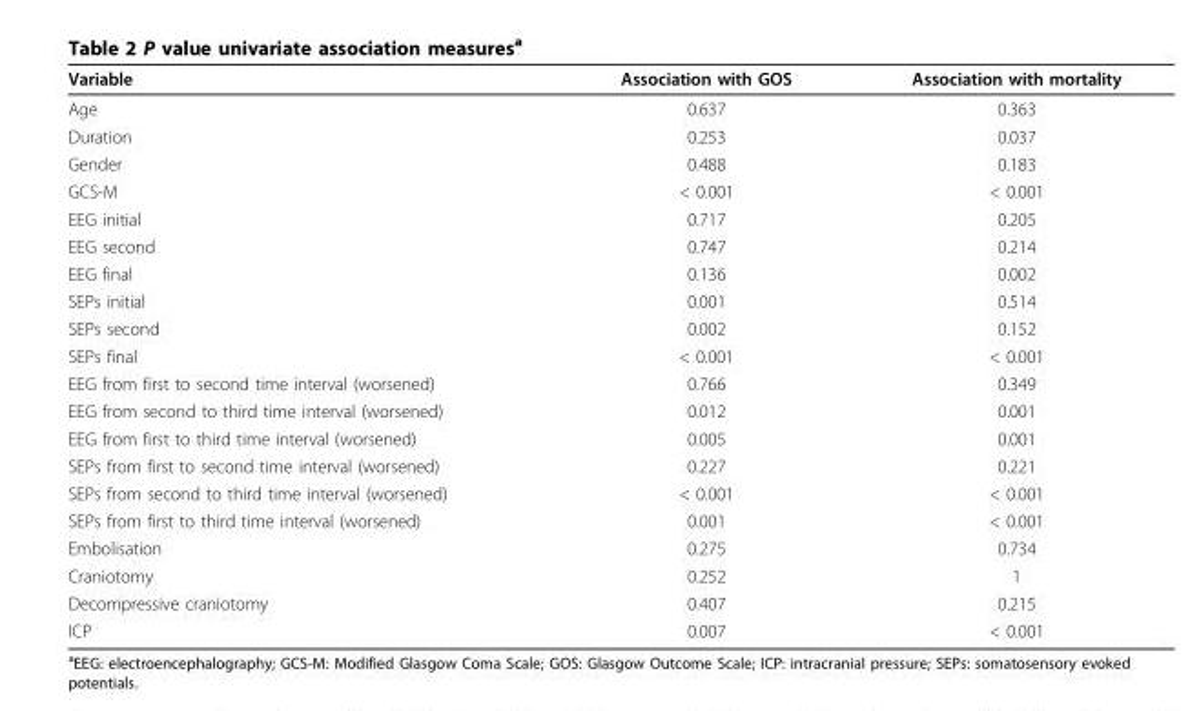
<table><thead><tr><td>Variable</td><td>Association with GOS</td><td>Association with mortality</td></tr></thead><tbody><tr><td>Age</td><td>0.637</td><td>0.363</td></tr><tr><td>Duration</td><td>0.253</td><td>0.037</td></tr><tr><td>Gender</td><td>0.488</td><td>0.183</td></tr><tr><td>GCS-M</td><td>&lt; 0.001</td><td>&lt; 0.001</td></tr><tr><td>EEG initial</td><td>0.717</td><td>0.205</td></tr><tr><td>EEG second</td><td>0.747</td><td>0.214</td></tr><tr><td>EEG final</td><td>0.136</td><td>0.002</td></tr><tr><td>SEPs initial</td><td>0.001</td><td>0.514</td></tr><tr><td>SEPs second</td><td>0.002</td><td>0.152</td></tr><tr><td>SEPs final</td><td>&lt; 0.001</td><td>&lt; 0.001</td></tr><tr><td>EEG from first to second time interval (worsened)</td><td>0.766</td><td>0.349</td></tr><tr><td>EEG from second to third time interval (worsened)</td><td>0.012</td><td>0.001</td></tr><tr><td>EEG from first to third time interval (worsened)</td><td>0.005</td><td>0.001</td></tr><tr><td>SEPs from first to second time interval (worsened)</td><td>0.227</td><td>0.221</td></tr><tr><td>SEPs from second to third time interval (worsened)</td><td>&lt; 0.001</td><td>&lt; 0.001</td></tr><tr><td>SEPs from first to third time interval (worsened)</td><td>0.001</td><td>&lt; 0.001</td></tr><tr><td>Embolisation</td><td>0.275</td><td>0.734</td></tr><tr><td>Craniotomy</td><td>0.252</td><td>1</td></tr><tr><td>Decompressive craniotomy</td><td>0.407</td><td>0.215</td></tr><tr><td>ICP</td><td>0.007</td><td>&lt; 0.001</td></tr></tbody></table>